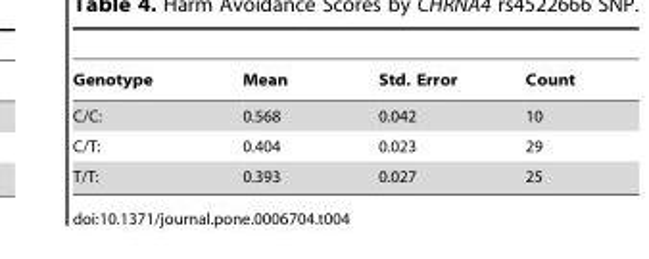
<table><thead><tr><td>Genotype</td><td>Mean</td><td>Std. Error</td><td>Count</td></tr></thead><tbody><tr><td>C/C:</td><td>0.568</td><td>0.042</td><td>10</td></tr><tr><td>C/T:</td><td>0.404</td><td>0.023</td><td>29</td></tr><tr><td>T/T:</td><td>0.393</td><td>0.027</td><td>25</td></tr></tbody></table>